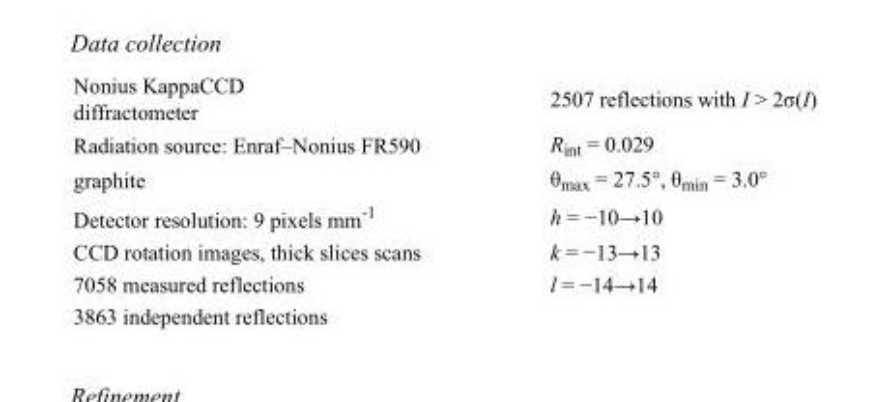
<table><tbody><tr><td>Nonius KappaCCD diffractometer</td><td>2507 reflections with I &gt; 2σ(I)</td></tr><tr><td>Radiation source: Enraf–Nonius FR590</td><td>R<sub>int</sub> = 0.029</td></tr><tr><td>graphite</td><td>θ<sub>max</sub> = 27.5°, θ<sub>min</sub> = 3.0°</td></tr><tr><td>Detector resolution: 9 pixels mm<sup>-1</sup></td><td>h = −10→10</td></tr><tr><td>CCD rotation images, thick slices scans</td><td>k = −13→13</td></tr><tr><td>7058 measured reflections</td><td>l = −14→14</td></tr><tr><td>3863 independent reflections</td><td></td></tr></tbody></table>